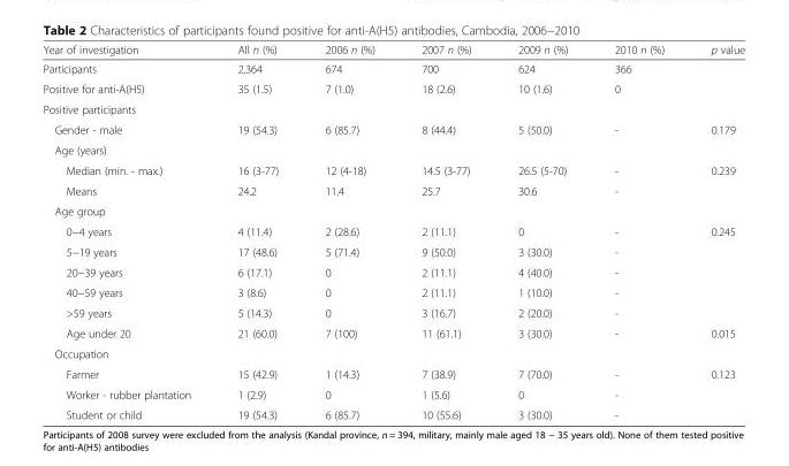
<table><thead><tr><td>Year of investigation</td><td>All n (%)</td><td>2006 n (%)</td><td>2007 n (%)</td><td>2009 n (%)</td><td>2010 n (%)</td><td>p value</td></tr></thead><tbody><tr><td>Participants</td><td>2,364</td><td>674</td><td>700</td><td>624</td><td>366</td><td></td></tr><tr><td>Positive for anti-A(H5)</td><td>35 (1.5)</td><td>7 (1.0)</td><td>18 (2.6)</td><td>10 (1.6)</td><td>0</td><td></td></tr><tr><td colspan="7">Positive participants</td></tr><tr><td>Gender - male</td><td>19 (54.3)</td><td>6 (85.7)</td><td>8 (44.4)</td><td>5 (50.0)</td><td>-</td><td>0.179</td></tr><tr><td colspan="7">Age (years)</td></tr><tr><td>Median (min. - max.)</td><td>16 (3-77)</td><td>12 (4-18)</td><td>14.5 (3-77)</td><td>26.5 (5-70)</td><td>-</td><td>0.239</td></tr><tr><td>Means</td><td>24.2</td><td>11.4</td><td>25.7</td><td>30.6</td><td>-</td><td></td></tr><tr><td colspan="7">Age group</td></tr><tr><td>0−4 years</td><td>4 (11.4)</td><td>2 (28.6)</td><td>2 (11.1)</td><td>0</td><td>-</td><td>0.245</td></tr><tr><td>5−19 years</td><td>17 (48.6)</td><td>5 (71.4)</td><td>9 (50.0)</td><td>3 (30.0)</td><td>-</td><td></td></tr><tr><td>20−39 years</td><td>6 (17.1)</td><td>0</td><td>2 (11.1)</td><td>4 (40.0)</td><td>-</td><td></td></tr><tr><td>40−59 years</td><td>3 (8.6)</td><td>0</td><td>2 (11.1)</td><td>1 (10.0)</td><td>-</td><td></td></tr><tr><td>&gt;59 years</td><td>5 (14.3)</td><td>0</td><td>3 (16.7)</td><td>2 (20.0)</td><td>-</td><td></td></tr><tr><td>Age under 20</td><td>21 (60.0)</td><td>7 (100)</td><td>11 (61.1)</td><td>3 (30.0)</td><td>-</td><td>0.015</td></tr><tr><td colspan="7">Occupation</td></tr><tr><td>Farmer</td><td>15 (42.9)</td><td>1 (14.3)</td><td>7 (38.9)</td><td>7 (70.0)</td><td>-</td><td>0.123</td></tr><tr><td>Worker - rubber plantation</td><td>1 (2.9)</td><td>0</td><td>1 (5.6)</td><td>0</td><td>-</td><td></td></tr><tr><td>Student or child</td><td>19 (54.3)</td><td>6 (85.7)</td><td>10 (55.6)</td><td>3 (30.0)</td><td>-</td><td></td></tr></tbody></table>